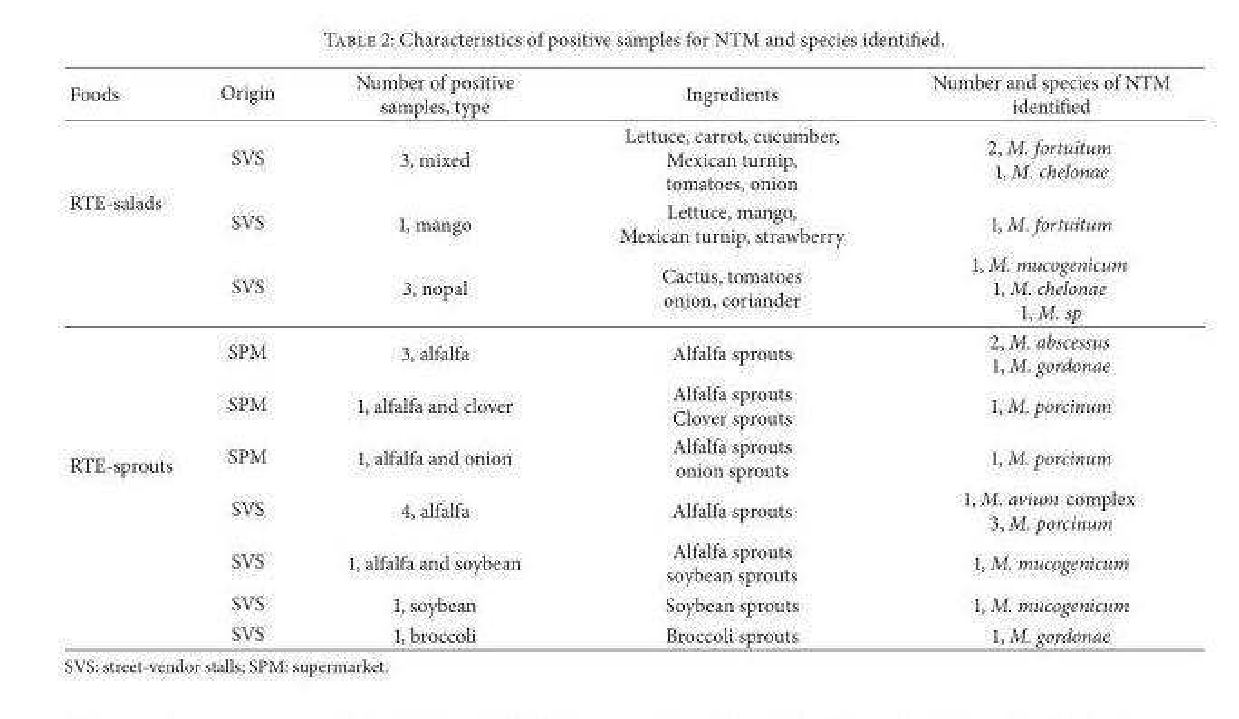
<table><thead><tr><td>Foods</td><td>Origin</td><td>Number of positive samples, type</td><td>Ingredients</td><td>Number and species of NTM identified</td></tr></thead><tbody><tr><td rowspan="3">RTE-salads</td><td>SVS</td><td>3, mixed</td><td>Lettuce, carrot, cucumber, Mexican turnip, tomatoes, onion</td><td>2, M. fortuitum 1, M. chelonae</td></tr><tr><td>SVS</td><td>1, mango</td><td>Lettuce, mango, Mexican turnip, strawberry</td><td>1, M. fortuitum</td></tr><tr><td>SVS</td><td>3, nopal</td><td>Cactus, tomatoes onion, coriander</td><td>1, M. mucogenicum 1, M. chelonae 1, M. sp</td></tr><tr><td rowspan="7">RTE-sprouts</td><td>SPM</td><td>3, alfalfa</td><td>Alfalfa sprouts</td><td>2, M. abscessus 1, M. gordonae</td></tr><tr><td>SPM</td><td>1, alfalfa and clover</td><td>Alfalfa sprouts Clover sprouts</td><td>1, M. porcinum</td></tr><tr><td>SPM</td><td>1, alfalfa and onion</td><td>Alfalfa sprouts onion sprouts</td><td>1, M. porcinum</td></tr><tr><td>SVS</td><td>4, alfalfa</td><td>Alfalfa sprouts</td><td>1, M. avium complex 3, M. porcinum</td></tr><tr><td>SVS</td><td>1, alfalfa and soybean</td><td>Alfalfa sprouts soybean sprouts</td><td>1, M. mucogenicum</td></tr><tr><td>SVS</td><td>1, soybean</td><td>Soybean sprouts</td><td>1, M. mucogenicum</td></tr><tr><td>SVS</td><td>1, broccoli</td><td>Broccoli sprouts</td><td>1, M. gordonae</td></tr></tbody></table>